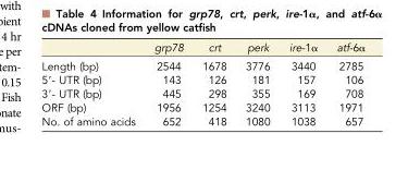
<table><thead><tr><td></td><td>grp78</td><td>crt</td><td>perk</td><td>ire-1α</td><td>atf-6α</td></tr></thead><tbody><tr><td>Length (bp)</td><td>2544</td><td>1678</td><td>3776</td><td>3440</td><td>2785</td></tr><tr><td>5′- UTR (bp)</td><td>143</td><td>126</td><td>181</td><td>157</td><td>106</td></tr><tr><td>3′- UTR (bp)</td><td>445</td><td>298</td><td>355</td><td>169</td><td>708</td></tr><tr><td>ORF (bp)</td><td>1956</td><td>1254</td><td>3240</td><td>3113</td><td>1971</td></tr><tr><td>No. of amino acids</td><td>652</td><td>418</td><td>1080</td><td>1038</td><td>657</td></tr></tbody></table>